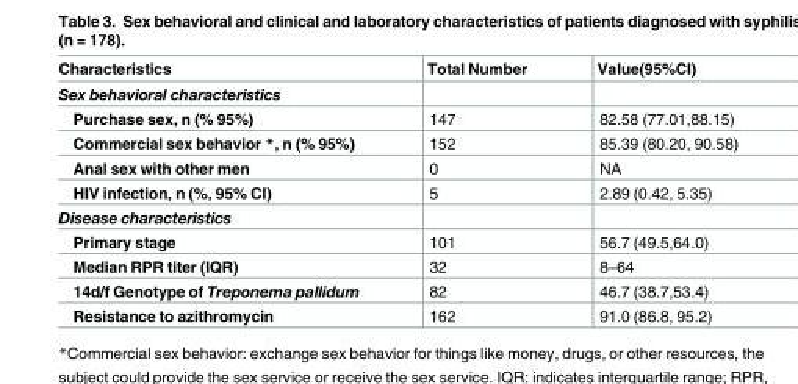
<table><thead><tr><td>Characteristics</td><td>Total Number</td><td>Value(95%CI)</td></tr></thead><tbody><tr><td colspan="3">Sex behavioral characteristics</td></tr><tr><td>Purchase sex, n (% 95%)</td><td>147</td><td>82.58 (77.01,88.15)</td></tr><tr><td>Commercial sex behavior *, n (% 95%)</td><td>152</td><td>85.39 (80.20, 90.58)</td></tr><tr><td>Anal sex with other men</td><td>0</td><td>NA</td></tr><tr><td>HIV infection, n (%, 95% CI)</td><td>5</td><td>2.89 (0.42, 5.35)</td></tr><tr><td colspan="3">Disease characteristics</td></tr><tr><td>Primary stage</td><td>101</td><td>56.7 (49.5,64.0)</td></tr><tr><td>Median RPR titer (IQR)</td><td>32</td><td>8–64</td></tr><tr><td>14d/f Genotype of Treponema pallidum</td><td>82</td><td>46.7 (38.7,53.4)</td></tr><tr><td>Resistance to azithromycin</td><td>162</td><td>91.0 (86.8, 95.2)</td></tr></tbody></table>